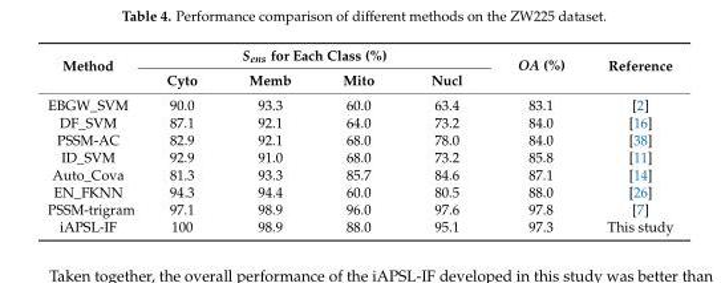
<table><thead><tr><td rowspan="2">Method</td><td colspan="4">S<sub>ens</sub> for Each Class (%)</td><td rowspan="2">OA (%)</td><td rowspan="2">Reference</td></tr><tr><td>Cyto</td><td>Memb</td><td>Mito</td><td>Nucl</td></tr></thead><tbody><tr><td>EBGW_SVM</td><td>90.0</td><td>93.3</td><td>60.0</td><td>63.4</td><td>83.1</td><td>[2]</td></tr><tr><td>DF_SVM</td><td>87.1</td><td>92.1</td><td>64.0</td><td>73.2</td><td>84.0</td><td>[16]</td></tr><tr><td>PSSM-AC</td><td>82.9</td><td>92.1</td><td>68.0</td><td>78.0</td><td>84.0</td><td>[38]</td></tr><tr><td>ID_SVM</td><td>92.9</td><td>91.0</td><td>68.0</td><td>73.2</td><td>85.8</td><td>[11]</td></tr><tr><td>Auto_Cova</td><td>81.3</td><td>93.3</td><td>85.7</td><td>84.6</td><td>87.1</td><td>[14]</td></tr><tr><td>EN_FKNN</td><td>94.3</td><td>94.4</td><td>60.0</td><td>80.5</td><td>88.0</td><td>[26]</td></tr><tr><td>PSSM-trigram</td><td>97.1</td><td>98.9</td><td>96.0</td><td>97.6</td><td>97.8</td><td>[7]</td></tr><tr><td>iAPSL-IF</td><td>100</td><td>98.9</td><td>88.0</td><td>95.1</td><td>97.3</td><td>This study</td></tr></tbody></table>